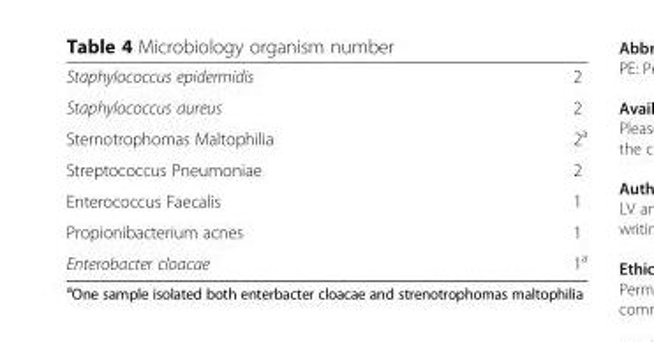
<table><tbody><tr><td>Staphylococcus epidermidis</td><td>2</td></tr><tr><td>Staphylococcus aureus</td><td>2</td></tr><tr><td>Sternotrophomas Maltophilia</td><td>2<sup>a</sup></td></tr><tr><td>Streptococcus Pneumoniae</td><td>2</td></tr><tr><td>Enterococcus Faecalis</td><td>1</td></tr><tr><td>Propionibacterium acnes</td><td>1</td></tr><tr><td>Enterobacter cloacae</td><td>1<sup>a</sup></td></tr></tbody></table>